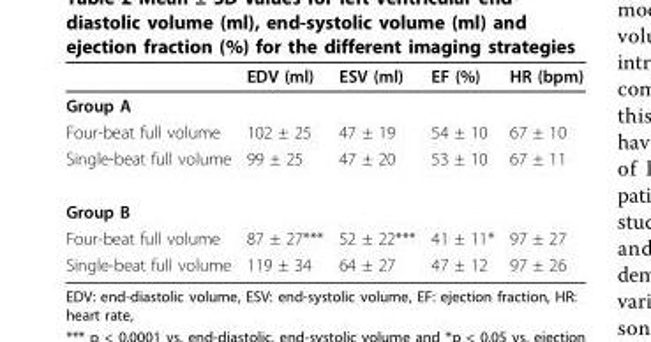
<table><thead><tr><td></td><td>EDV (ml)</td><td>ESV (ml)</td><td>EF (%)</td><td>HR (bpm)</td></tr></thead><tbody><tr><td colspan="5">Group A</td></tr><tr><td>Four-beat full volume</td><td>102 ± 25</td><td>47 ± 19</td><td>54 ± 10</td><td>67 ± 10</td></tr><tr><td>Single-beat full volume</td><td>99 ± 25</td><td>47 ± 20</td><td>53 ± 10</td><td>67 ± 11</td></tr><tr><td colspan="5">Group B</td></tr><tr><td>Four-beat full volume</td><td>87 ± 27***</td><td>52 ± 22***</td><td>41 ± 11*</td><td>97 ± 27</td></tr><tr><td>Single-beat full volume</td><td>119 ± 34</td><td>64 ± 27</td><td>47 ± 12</td><td>97 ± 26</td></tr></tbody></table>